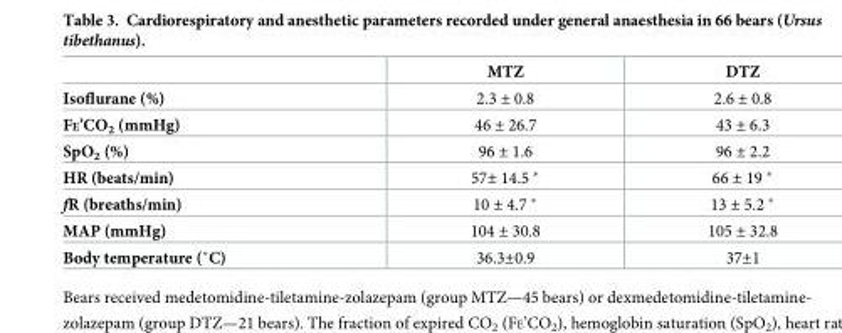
<table><thead><tr><td></td><td>MTZ</td><td>DTZ</td></tr></thead><tbody><tr><td>Isoflurane (%)</td><td>2.3 ± 0.8</td><td>2.6 ± 0.8</td></tr><tr><td>FE’CO<sub>2</sub> (mmHg)</td><td>46 ± 26.7</td><td>43 ± 6.3</td></tr><tr><td>SpO<sub>2</sub> (%)</td><td>96 ± 1.6</td><td>96 ± 2.2</td></tr><tr><td>HR (beats/min)</td><td>57± 14.5 *</td><td>66 ± 19 *</td></tr><tr><td>fR (breaths/min)</td><td>10 ± 4.7 *</td><td>13 ± 5.2 *</td></tr><tr><td>MAP (mmHg)</td><td>104 ± 30.8</td><td>105 ± 32.8</td></tr><tr><td>Body temperature (˚C)</td><td>36.3±0.9</td><td>37±1</td></tr></tbody></table>